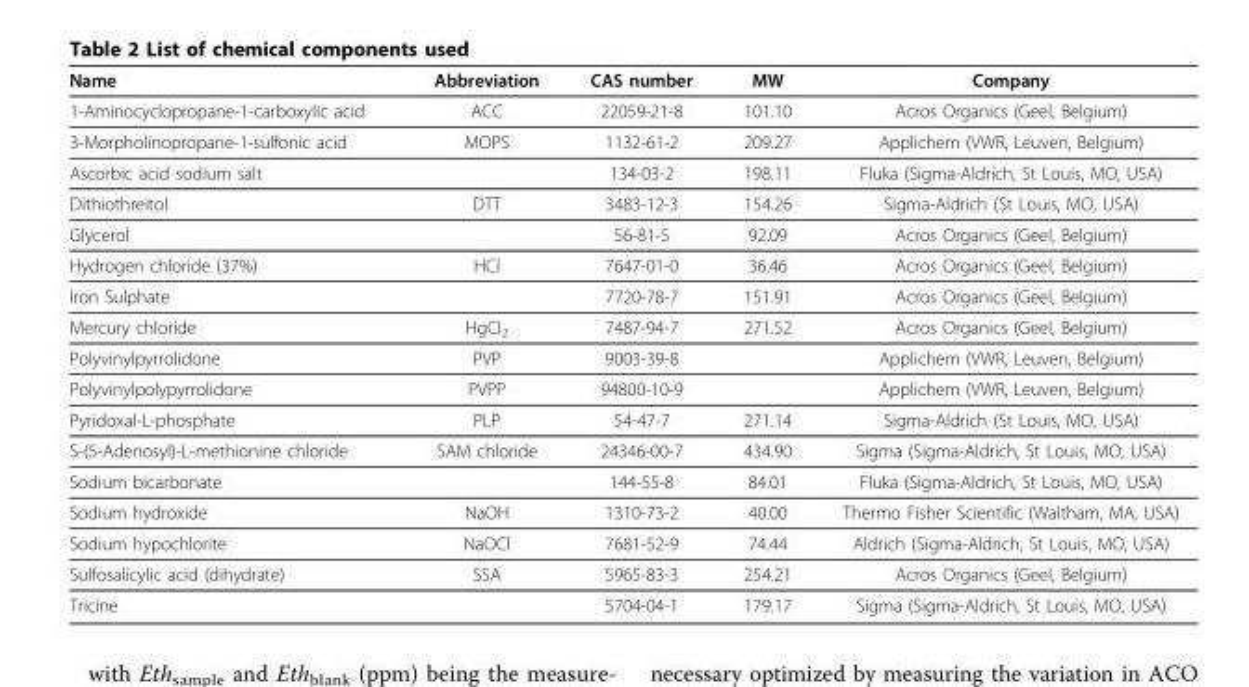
<table><thead><tr><td>Name</td><td>Abbreviation</td><td>CAS number</td><td>MW</td><td>Company</td></tr></thead><tbody><tr><td>1-Aminocyclopropane-1-carboxylic acid</td><td>ACC</td><td>22059-21-8</td><td>101.10</td><td>Acros Organics (Geel, Belgium)</td></tr><tr><td>3-Morpholinopropane-1-sulfonic acid</td><td>MOPS</td><td>1132-61-2</td><td>209.27</td><td>Applichem (VWR, Leuven, Belgium)</td></tr><tr><td>Ascorbic acid sodium salt</td><td></td><td>134-03-2</td><td>198.11</td><td>Fluka (Sigma-Aldrich, St Louis, MO, USA)</td></tr><tr><td>Dithiothreitol</td><td>DTT</td><td>3483-12-3</td><td>154.26</td><td>Sigma-Aldrich (St Louis, MO, USA)</td></tr><tr><td>Glycerol</td><td></td><td>56-81-5</td><td>92.09</td><td>Acros Organics (Geel, Belgium)</td></tr><tr><td>Hydrogen chloride (37%)</td><td>HCl</td><td>7647-01-0</td><td>36.46</td><td>Acros Organics (Geel, Belgium)</td></tr><tr><td>Iron Sulphate</td><td></td><td>7720-78-7</td><td>151.91</td><td>Acros Organics (Geel, Belgium)</td></tr><tr><td>Mercury chloride</td><td>HgCl<sub>2</sub></td><td>7487-94-7</td><td>271.52</td><td>Acros Organics (Geel, Belgium)</td></tr><tr><td>Polyvinylpyrrolidone</td><td>PVP</td><td>9003-39-8</td><td></td><td>Applichem (VWR, Leuven, Belgium)</td></tr><tr><td>Polyvinylpolypyrrolidone</td><td>PVPP</td><td>94800-10-9</td><td></td><td>Applichem (VWR, Leuven, Belgium)</td></tr><tr><td>Pyridoxal-L-phosphate</td><td>PLP</td><td>54-47-7</td><td>271.14</td><td>Sigma-Aldrich (St Louis, MO, USA)</td></tr><tr><td>S-(5-Adenosyl)-L-methionine chloride</td><td>SAM chloride</td><td>24346-00-7</td><td>434.90</td><td>Sigma (Sigma-Aldrich, St Louis, MO, USA)</td></tr><tr><td>Sodium bicarbonate</td><td></td><td>144-55-8</td><td>84.01</td><td>Fluka (Sigma-Aldrich, St Louis, MO, USA)</td></tr><tr><td>Sodium hydroxide</td><td>NaOH</td><td>1310-73-2</td><td>40.00</td><td>Thermo Fisher Scientific (Waltham, MA, USA)</td></tr><tr><td>Sodium hypochlorite</td><td>NaOCl</td><td>7681-52-9</td><td>74.44</td><td>Aldrich (Sigma-Aldrich, St Louis, MO, USA)</td></tr><tr><td>Sulfosalicylic acid (dihydrate)</td><td>SSA</td><td>5965-83-3</td><td>254.21</td><td>Acros Organics (Geel, Belgium)</td></tr><tr><td>Tricine</td><td></td><td>5704-04-1</td><td>179.17</td><td>Sigma (Sigma-Aldrich, St Louis, MO, USA)</td></tr></tbody></table>